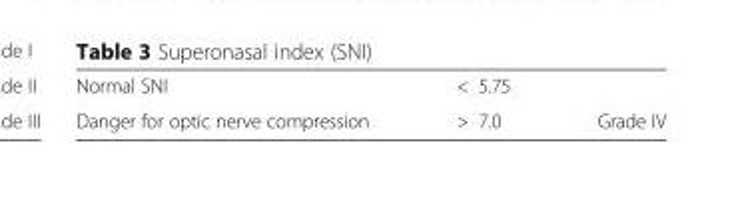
<table><tbody><tr><td>Normal SNI</td><td>&lt; 5.75</td><td></td></tr><tr><td>Danger for optic nerve compression</td><td>&gt; 7.0</td><td>Grade IV</td></tr></tbody></table>